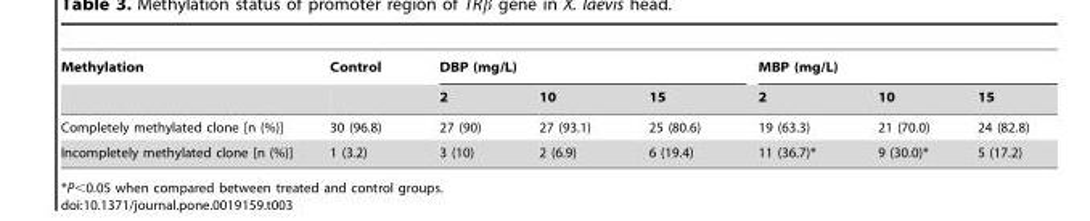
<table><thead><tr><td rowspan="2">Methylation</td><td rowspan="2">Control</td><td colspan="3">DBP (mg/L)</td><td colspan="3">MBP (mg/L)</td></tr><tr><td>2</td><td>10</td><td>15</td><td>2</td><td>10</td><td>15</td></tr></thead><tbody><tr><td>Completely methylated clone [n (%)]</td><td>30 (96.8)</td><td>27 (90)</td><td>27 (93.1)</td><td>25 (80.6)</td><td>19 (63.3)</td><td>21 (70.0)</td><td>24 (82.8)</td></tr><tr><td>Incompletely methylated clone [n (%)]</td><td>1 (3.2)</td><td>3 (10)</td><td>2 (6.9)</td><td>6 (19.4)</td><td>11 (36.7)*</td><td>9 (30.0)*</td><td>5 (17.2)</td></tr></tbody></table>